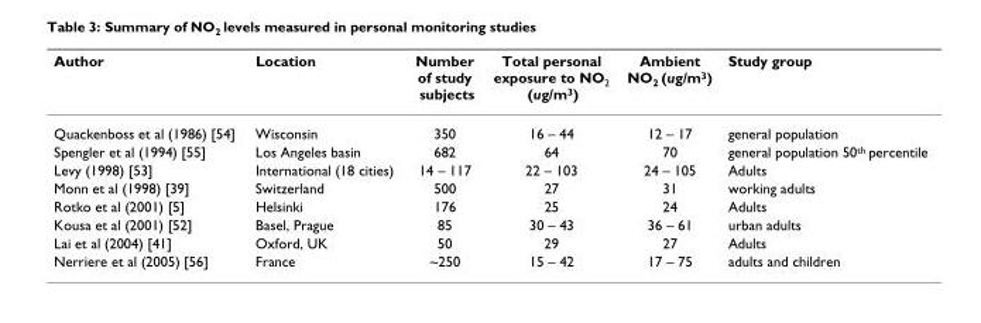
<table><thead><tr><td>Author</td><td>Location</td><td>Number of study subjects</td><td>Total personal exposure to NO<sub>2</sub> (ug/m<sup>3</sup>)</td><td>Ambient NO<sub>2</sub> (ug/m<sup>3</sup>)</td><td>Study group</td></tr></thead><tbody><tr><td>Quackenboss et al (1986) [54]</td><td>Wisconsin</td><td>350</td><td>16 – 44</td><td>12 – 17</td><td>general population</td></tr><tr><td>Spengler et al (1994) [55]</td><td>Los Angeles basin</td><td>682</td><td>64</td><td>70</td><td>general population 50<sup>th</sup> percentile</td></tr><tr><td>Levy (1998) [53]</td><td>International (18 cities)</td><td>14 – 117</td><td>22 – 103</td><td>24 – 105</td><td>Adults</td></tr><tr><td>Monn et al (1998) [39]</td><td>Switzerland</td><td>500</td><td>27</td><td>31</td><td>working adults</td></tr><tr><td>Rotko et al (2001) [5]</td><td>Helsinki</td><td>176</td><td>25</td><td>24</td><td>Adults</td></tr><tr><td>Kousa et al (2001) [52]</td><td>Basel, Prague</td><td>85</td><td>30 – 43</td><td>36 – 61</td><td>urban adults</td></tr><tr><td>Lai et al (2004) [41]</td><td>Oxford, UK</td><td>50</td><td>29</td><td>27</td><td>Adults</td></tr><tr><td>Nerriere et al (2005) [56]</td><td>France</td><td>~250</td><td>15 – 42</td><td>17 – 75</td><td>adults and children</td></tr></tbody></table>